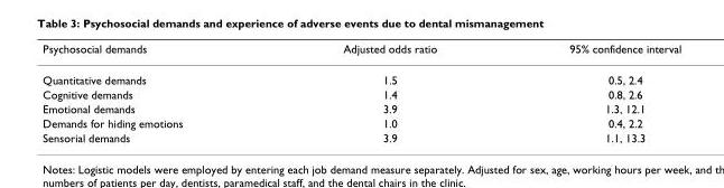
<table><thead><tr><td>Psychosocial demands</td><td>Adjusted odds ratio</td><td>95% confidence interval</td></tr></thead><tbody><tr><td>Quantitative demands</td><td>1.5</td><td>0.5, 2.4</td></tr><tr><td>Cognitive demands</td><td>1.4</td><td>0.8, 2.6</td></tr><tr><td>Emotional demands</td><td>3.9</td><td>1.3, 12.1</td></tr><tr><td>Demands for hiding emotions</td><td>1.0</td><td>0.4, 2.2</td></tr><tr><td>Sensorial demands</td><td>3.9</td><td>1.1, 13.3</td></tr></tbody></table>